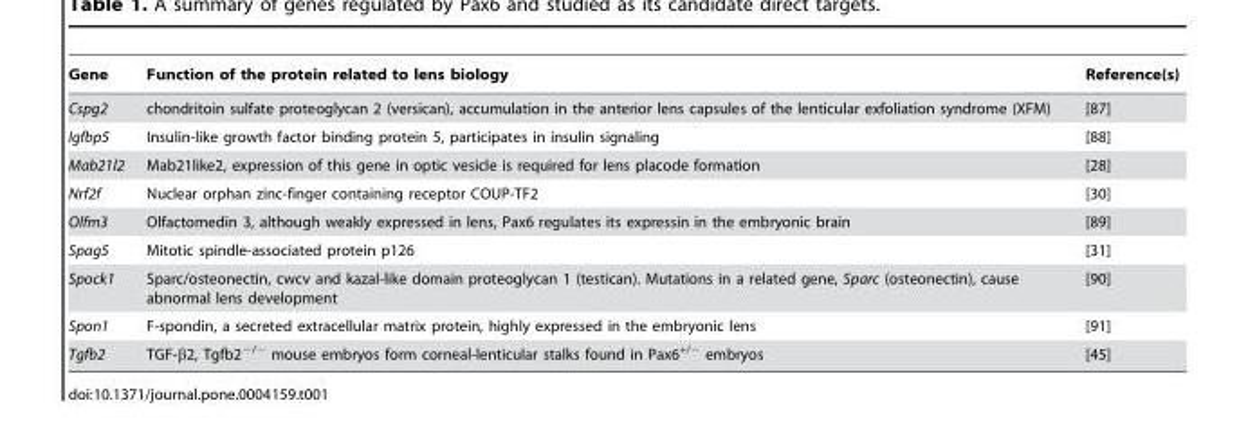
<table><thead><tr><td>Gene</td><td>Function of the protein related to lens biology</td><td>Reference(s)</td></tr></thead><tbody><tr><td>Cspg2</td><td>chondritoin sulfate proteoglycan 2 (versican), accumulation in the anterior lens capsules of the lenticular exfoliation syndrome (XFM)</td><td>[87]</td></tr><tr><td>Igfbp5</td><td>Insulin-like growth factor binding protein 5, participates in insulin signaling</td><td>[88]</td></tr><tr><td>Mab21l2</td><td>Mab21like2, expression of this gene in optic vesicle is required for lens placode formation</td><td>[28]</td></tr><tr><td>Nrf2f</td><td>Nuclear orphan zinc-finger containing receptor COUP-TF2</td><td>[30]</td></tr><tr><td>Olfm3</td><td>Olfactomedin 3, although weakly expressed in lens, Pax6 regulates its expressin in the embryonic brain</td><td>[89]</td></tr><tr><td>Spag5</td><td>Mitotic spindle-associated protein p126</td><td>[31]</td></tr><tr><td>Spock1</td><td>Sparc/osteonectin, cwcv and kazal-like domain proteoglycan 1 (testican). Mutations in a related gene, Sparc (osteonectin), cause abnormal lens development</td><td>[90]</td></tr><tr><td>Spon1</td><td>F-spondin, a secreted extracellular matrix protein, highly expressed in the embryonic lens</td><td>[91]</td></tr><tr><td>Tgfb2</td><td>TGF-β2, Tgfb2<sup>−/−</sup> mouse embryos form corneal-lenticular stalks found in Pax6<sup>+/−</sup> embryos</td><td>[45]</td></tr></tbody></table>